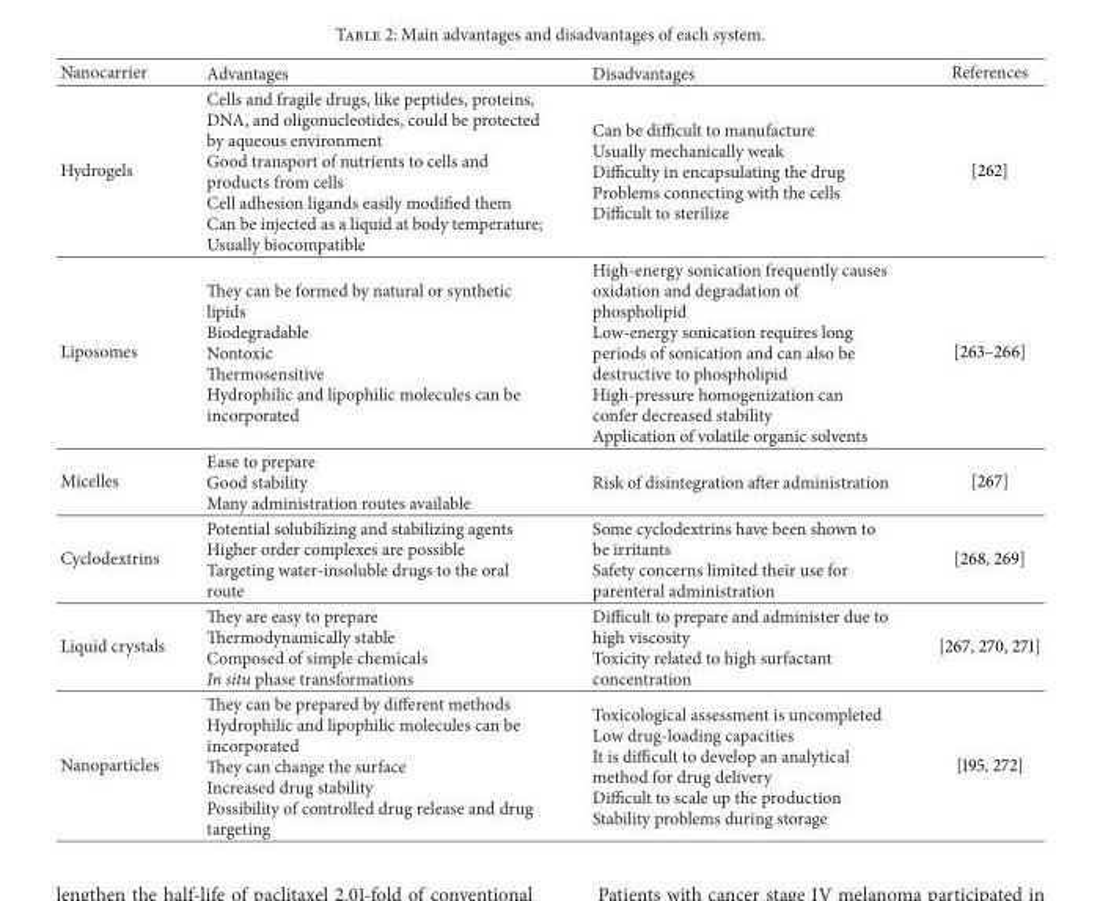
<table><thead><tr><td>Nanocarrier</td><td>Advantages</td><td>Disadvantages</td><td>References</td></tr></thead><tbody><tr><td>Hydrogels</td><td>Cells and fragile drugs, like peptides, proteins, DNA, and oligonucleotides, could be protected by aqueous environment Good transport of nutrients to cells and products from cells Cell adhesion ligands easily modified them Can be injected as a liquid at body temperature; Usually biocompatible</td><td>Can be difficult to manufacture Usually mechanically weak Difficulty in encapsulating the drug Problems connecting with the cells Difficult to sterilize</td><td>[262]</td></tr><tr><td>Liposomes</td><td>They can be formed by natural or synthetic lipids Biodegradable Nontoxic Thermosensitive Hydrophilic and lipophilic molecules can be incorporated</td><td>High-energy sonication frequently causes oxidation and degradation of phospholipid Low-energy sonication requires long periods of sonication and can also be destructive to phospholipid High-pressure homogenization can confer decreased stability Application of volatile organic solvents</td><td>[263–266]</td></tr><tr><td>Micelles</td><td>Ease to prepare Good stability Many administration routes available</td><td>Risk of disintegration after administration</td><td>[267]</td></tr><tr><td>Cyclodextrins</td><td>Potential solubilizing and stabilizing agents Higher order complexes are possible Targeting water-insoluble drugs to the oral route</td><td>Some cyclodextrins have been shown to be irritants Safety concerns limited their use for parenteral administration</td><td>[268, 269]</td></tr><tr><td>Liquid crystals</td><td>They are easy to prepare Thermodynamically stable Composed of simple chemicals In situ phase transformations</td><td>Difficult to prepare and administer due to high viscosity Toxicity related to high surfactant concentration</td><td>[267, 270, 271]</td></tr><tr><td>Nanoparticles</td><td>They can be prepared by different methods Hydrophilic and lipophilic molecules can be incorporated They can change the surface Increased drug stability Possibility of controlled drug release and drug targeting</td><td>Toxicological assessment is uncompleted Low drug-loading capacities It is difficult to develop an analytical method for drug delivery Difficult to scale up the production Stability problems during storage</td><td>[195, 272]</td></tr></tbody></table>